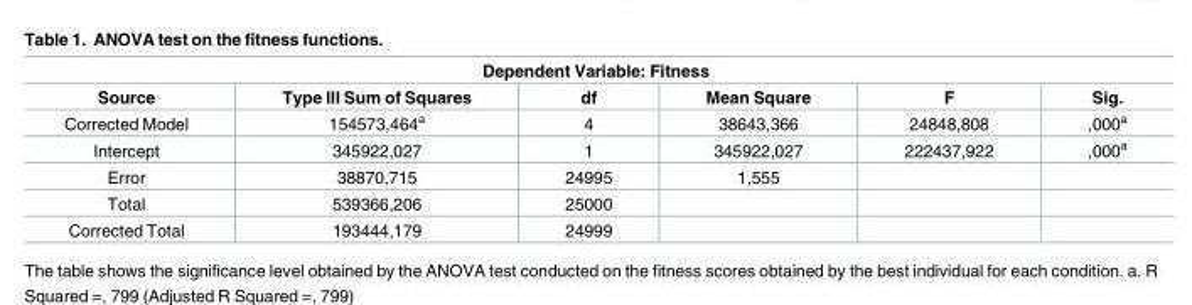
<table><thead><tr><td colspan="6">Dependent Variable: Fitness</td></tr><tr><td>Source</td><td>Type III Sum of Squares</td><td>df</td><td>Mean Square</td><td>F</td><td>Sig.</td></tr></thead><tbody><tr><td>Corrected Model</td><td>154573,464<sup>a</sup></td><td>4</td><td>38643,366</td><td>24848,808</td><td>,000<sup>a</sup></td></tr><tr><td>Intercept</td><td>345922,027</td><td>1</td><td>345922,027</td><td>222437,922</td><td>,000<sup>a</sup></td></tr><tr><td>Error</td><td>38870,715</td><td>24995</td><td>1,555</td><td></td><td></td></tr><tr><td>Total</td><td>539366,206</td><td>25000</td><td></td><td></td><td></td></tr><tr><td>Corrected Total</td><td>193444,179</td><td>24999</td><td></td><td></td><td></td></tr></tbody></table>